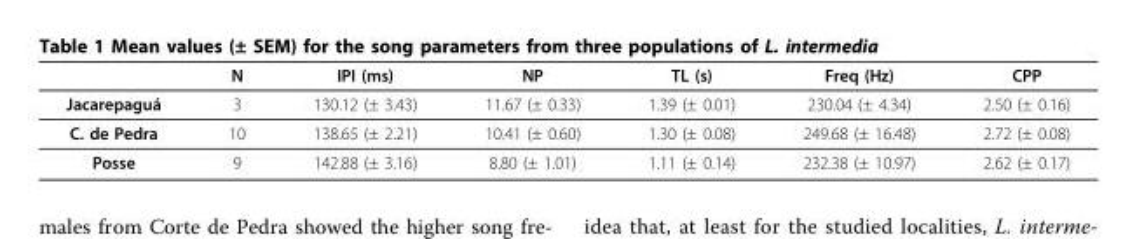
<table><thead><tr><td></td><td>N</td><td>IPI (ms)</td><td>NP</td><td>TL (s)</td><td>Freq (Hz)</td><td>CPP</td></tr></thead><tbody><tr><td>Jacarepaguá</td><td>3</td><td>130.12 (± 3.43)</td><td>11.67 (± 0.33)</td><td>1.39 (± 0.01)</td><td>230.04 (± 4.34)</td><td>2.50 (± 0.16)</td></tr><tr><td>C. de Pedra</td><td>10</td><td>138.65 (± 2.21)</td><td>10.41 (± 0.60)</td><td>1.30 (± 0.08)</td><td>249.68 (± 16.48)</td><td>2.72 (± 0.08)</td></tr><tr><td>Posse</td><td>9</td><td>142.88 (± 3.16)</td><td>8.80 (± 1.01)</td><td>1.11 (± 0.14)</td><td>232.38 (± 10.97)</td><td>2.62 (± 0.17)</td></tr></tbody></table>